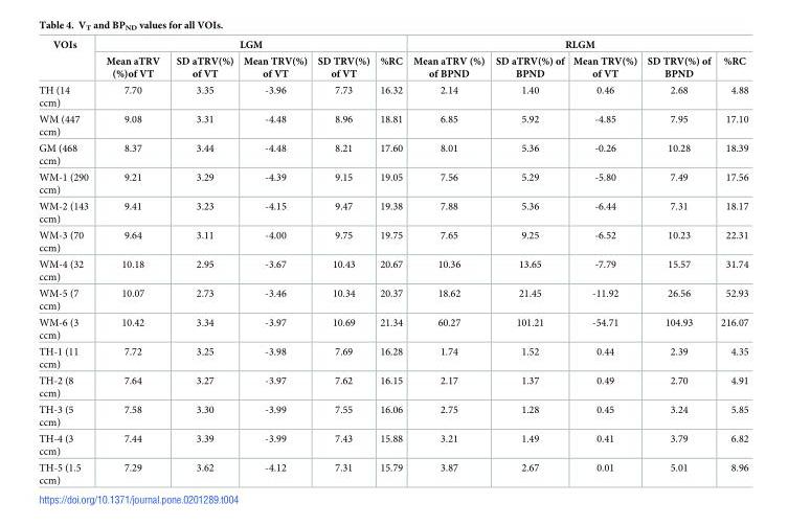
<table><thead><tr><td rowspan="2">VOIs</td><td colspan="5">LGM</td><td colspan="5">RLGM</td></tr><tr><td>Mean aTRV (%)of VT</td><td>SD aTRV(%) of VT</td><td>Mean TRV(%) of VT</td><td>SD TRV(%) of VT</td><td>%RC</td><td>Mean aTRV (%) of BPND</td><td>SD aTRV(%) of BPND</td><td>Mean TRV(%) of VT</td><td>SD TRV(%) of BPND</td><td>%RC</td></tr></thead><tbody><tr><td>TH (14 ccm)</td><td>7.70</td><td>3.35</td><td>-3.96</td><td>7.73</td><td>16.32</td><td>2.14</td><td>1.40</td><td>0.46</td><td>2.68</td><td>4.88</td></tr><tr><td>WM (447 ccm)</td><td>9.08</td><td>3.31</td><td>-4.48</td><td>8.96</td><td>18.81</td><td>6.85</td><td>5.92</td><td>-4.85</td><td>7.95</td><td>17.10</td></tr><tr><td>GM (468 ccm)</td><td>8.37</td><td>3.44</td><td>-4.48</td><td>8.21</td><td>17.60</td><td>8.01</td><td>5.36</td><td>-0.26</td><td>10.28</td><td>18.39</td></tr><tr><td>WM-1 (290 ccm)</td><td>9.21</td><td>3.29</td><td>-4.39</td><td>9.15</td><td>19.05</td><td>7.56</td><td>5.29</td><td>-5.80</td><td>7.49</td><td>17.56</td></tr><tr><td>WM-2 (143 ccm)</td><td>9.41</td><td>3.23</td><td>-4.15</td><td>9.47</td><td>19.38</td><td>7.88</td><td>5.36</td><td>-6.44</td><td>7.31</td><td>18.17</td></tr><tr><td>WM-3 (70 ccm)</td><td>9.64</td><td>3.11</td><td>-4.00</td><td>9.75</td><td>19.75</td><td>7.65</td><td>9.25</td><td>-6.52</td><td>10.23</td><td>22.31</td></tr><tr><td>WM-4 (32 ccm)</td><td>10.18</td><td>2.95</td><td>-3.67</td><td>10.43</td><td>20.67</td><td>10.36</td><td>13.65</td><td>-7.79</td><td>15.57</td><td>31.74</td></tr><tr><td>WM-5 (7 ccm)</td><td>10.07</td><td>2.73</td><td>-3.46</td><td>10.34</td><td>20.37</td><td>18.62</td><td>21.45</td><td>-11.92</td><td>26.56</td><td>52.93</td></tr><tr><td>WM-6 (3 ccm)</td><td>10.42</td><td>3.34</td><td>-3.97</td><td>10.69</td><td>21.34</td><td>60.27</td><td>101.21</td><td>-54.71</td><td>104.93</td><td>216.07</td></tr><tr><td>TH-1 (11 ccm)</td><td>7.72</td><td>3.25</td><td>-3.98</td><td>7.69</td><td>16.28</td><td>1.74</td><td>1.52</td><td>0.44</td><td>2.39</td><td>4.35</td></tr><tr><td>TH-2 (8 ccm)</td><td>7.64</td><td>3.27</td><td>-3.97</td><td>7.62</td><td>16.15</td><td>2.17</td><td>1.37</td><td>0.49</td><td>2.70</td><td>4.91</td></tr><tr><td>TH-3 (5 ccm)</td><td>7.58</td><td>3.30</td><td>-3.99</td><td>7.55</td><td>16.06</td><td>2.75</td><td>1.28</td><td>0.45</td><td>3.24</td><td>5.85</td></tr><tr><td>TH-4 (3 ccm)</td><td>7.44</td><td>3.39</td><td>-3.99</td><td>7.43</td><td>15.88</td><td>3.21</td><td>1.49</td><td>0.41</td><td>3.79</td><td>6.82</td></tr><tr><td>TH-5 (1.5 ccm)</td><td>7.29</td><td>3.62</td><td>-4.12</td><td>7.31</td><td>15.79</td><td>3.87</td><td>2.67</td><td>0.01</td><td>5.01</td><td>8.96</td></tr></tbody></table>